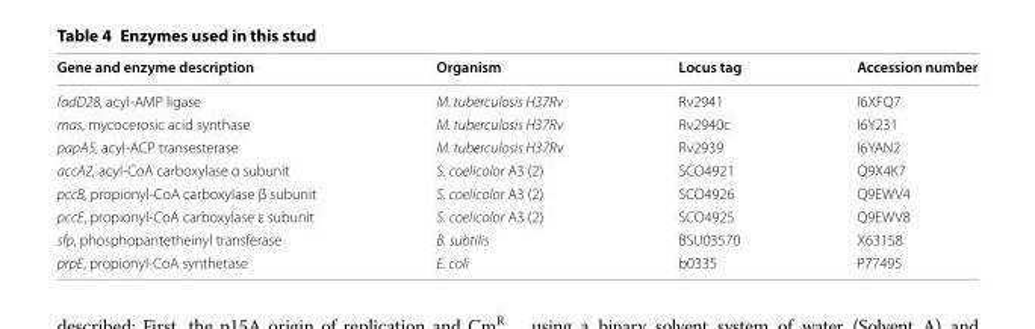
<table><thead><tr><td>Gene and enzyme description</td><td>Organism</td><td>Locus tag</td><td>Accession number</td></tr></thead><tbody><tr><td>fadD28, acyl‑AMP ligase</td><td>M. tuberculosis H37Rv</td><td>Rv2941</td><td>I6XFQ7</td></tr><tr><td>mas, mycocerosic acid synthase</td><td>M. tuberculosis H37Rv</td><td>Rv2940c</td><td>I6Y231</td></tr><tr><td>papA5, acyl‑ACP transesterase</td><td>M. tuberculosis H37Rv</td><td>Rv2939</td><td>I6YAN2</td></tr><tr><td>accA2, acyl‑CoA carboxylase α subunit</td><td>S. coelicolor A3 (2)</td><td>SCO4921</td><td>Q9X4K7</td></tr><tr><td>pccB, propionyl‑CoA carboxylase β subunit</td><td>S. coelicolor A3 (2)</td><td>SCO4926</td><td>Q9EWV4</td></tr><tr><td>pccE, propionyl‑CoA carboxylase ε subunit</td><td>S. coelicolor A3 (2)</td><td>SCO4925</td><td>Q9EWV8</td></tr><tr><td>sfp, phosphopantetheinyl transferase</td><td>B. subtilis</td><td>BSU03570</td><td>X63158</td></tr><tr><td>prpE, propionyl‑CoA synthetase</td><td>E. coli</td><td>b0335</td><td>P77495</td></tr></tbody></table>